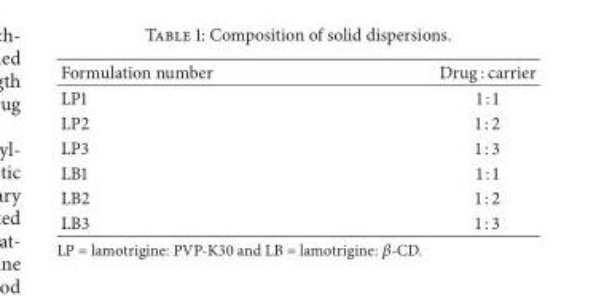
<table><thead><tr><td>Formulation number</td><td>Drug : carrier</td></tr></thead><tbody><tr><td>LP1</td><td>1 : 1</td></tr><tr><td>LP2</td><td>1 : 2</td></tr><tr><td>LP3</td><td>1 : 3</td></tr><tr><td>LB1</td><td>1 : 1</td></tr><tr><td>LB2</td><td>1 : 2</td></tr><tr><td>LB3</td><td>1 : 3</td></tr></tbody></table>